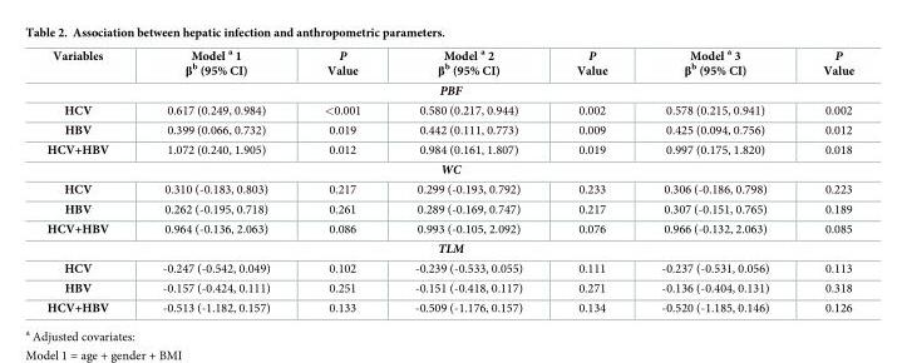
<table><thead><tr><td>Variables</td><td>Model <sup>a</sup> 1 β<sup>b</sup> (95% CI)</td><td>P Value</td><td>Model <sup>a</sup> 2 β<sup>b</sup> (95% CI)</td><td>P Value</td><td>Model <sup>a</sup> 3 β<sup>b</sup> (95% CI)</td><td>P Value</td></tr></thead><tbody><tr><td colspan="7">PBF</td></tr><tr><td>HCV</td><td>0.617 (0.249, 0.984)</td><td>&lt;0.001</td><td>0.580 (0.217, 0.944)</td><td>0.002</td><td>0.578 (0.215, 0.941)</td><td>0.002</td></tr><tr><td>HBV</td><td>0.399 (0.066, 0.732)</td><td>0.019</td><td>0.442 (0.111, 0.773)</td><td>0.009</td><td>0.425 (0.094, 0.756)</td><td>0.012</td></tr><tr><td>HCV+HBV</td><td>1.072 (0.240, 1.905)</td><td>0.012</td><td>0.984 (0.161, 1.807)</td><td>0.019</td><td>0.997 (0.175, 1.820)</td><td>0.018</td></tr><tr><td colspan="7">WC</td></tr><tr><td>HCV</td><td>0.310 (-0.183, 0.803)</td><td>0.217</td><td>0.299 (-0.193, 0.792)</td><td>0.233</td><td>0.306 (-0.186, 0.798)</td><td>0.223</td></tr><tr><td>HBV</td><td>0.262 (-0.195, 0.718)</td><td>0.261</td><td>0.289 (-0.169, 0.747)</td><td>0.217</td><td>0.307 (-0.151, 0.765)</td><td>0.189</td></tr><tr><td>HCV+HBV</td><td>0.964 (-0.136, 2.063)</td><td>0.086</td><td>0.993 (-0.105, 2.092)</td><td>0.076</td><td>0.966 (-0.132, 2.063)</td><td>0.085</td></tr><tr><td colspan="7">TLM</td></tr><tr><td>HCV</td><td>-0.247 (-0.542, 0.049)</td><td>0.102</td><td>-0.239 (-0.533, 0.055)</td><td>0.111</td><td>-0.237 (-0.531, 0.056)</td><td>0.113</td></tr><tr><td>HBV</td><td>-0.157 (-0.424, 0.111)</td><td>0.251</td><td>-0.151 (-0.418, 0.117)</td><td>0.271</td><td>-0.136 (-0.404, 0.131)</td><td>0.318</td></tr><tr><td>HCV+HBV</td><td>-0.513 (-1.182, 0.157)</td><td>0.133</td><td>-0.509 (-1.176, 0.157)</td><td>0.134</td><td>-0.520 (-1.185, 0.146)</td><td>0.126</td></tr></tbody></table>